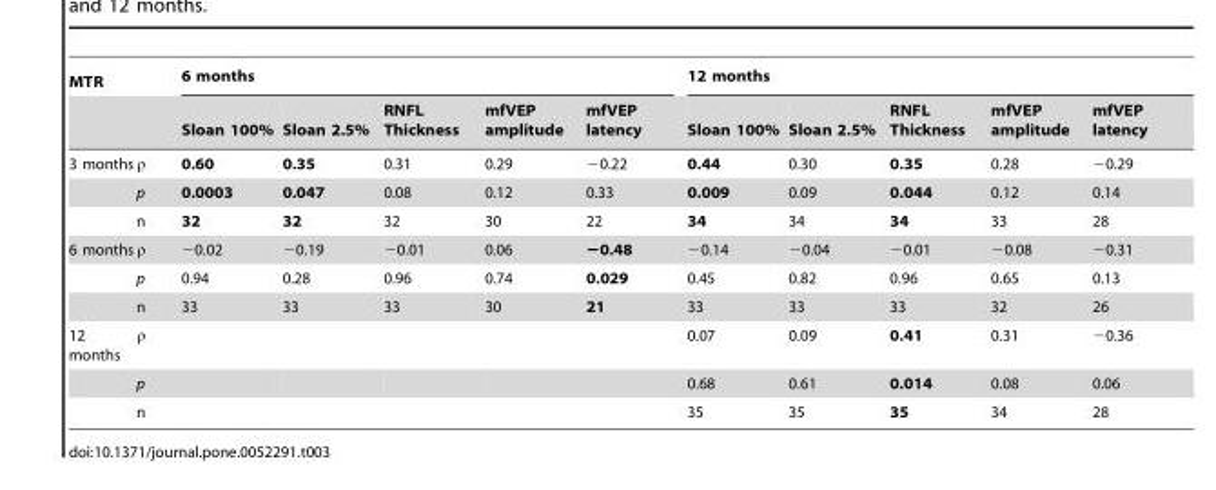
<table><thead><tr><td colspan="2">MTR</td><td colspan="5">6 months</td><td colspan="5">12 months</td></tr><tr><td></td><td></td><td>Sloan 100%</td><td>Sloan 2.5%</td><td>RNFL Thickness</td><td>mfVEP amplitude</td><td>mfVEP latency</td><td>Sloan 100%</td><td>Sloan 2.5%</td><td>RNFL Thickness</td><td>mfVEP amplitude</td><td>mfVEP latency</td></tr></thead><tbody><tr><td rowspan="3">3 months</td><td>ρ</td><td>0.60</td><td>0.35</td><td>0.31</td><td>0.29</td><td>−0.22</td><td>0.44</td><td>0.30</td><td>0.35</td><td>0.28</td><td>−0.29</td></tr><tr><td>p</td><td>0.0003</td><td>0.047</td><td>0.08</td><td>0.12</td><td>0.33</td><td>0.009</td><td>0.09</td><td>0.044</td><td>0.12</td><td>0.14</td></tr><tr><td>n</td><td>32</td><td>32</td><td>32</td><td>30</td><td>22</td><td>34</td><td>34</td><td>34</td><td>33</td><td>28</td></tr><tr><td rowspan="3">6 months</td><td>ρ</td><td>−0.02</td><td>−0.19</td><td>−0.01</td><td>0.06</td><td>−0.48</td><td>−0.14</td><td>−0.04</td><td>−0.01</td><td>−0.08</td><td>−0.31</td></tr><tr><td>p</td><td>0.94</td><td>0.28</td><td>0.96</td><td>0.74</td><td>0.029</td><td>0.45</td><td>0.82</td><td>0.96</td><td>0.65</td><td>0.13</td></tr><tr><td>n</td><td>33</td><td>33</td><td>33</td><td>30</td><td>21</td><td>33</td><td>33</td><td>33</td><td>32</td><td>26</td></tr><tr><td rowspan="3">12 months</td><td>ρ</td><td></td><td></td><td></td><td></td><td></td><td>0.07</td><td>0.09</td><td>0.41</td><td>0.31</td><td>−0.36</td></tr><tr><td>p</td><td></td><td></td><td></td><td></td><td></td><td>0.68</td><td>0.61</td><td>0.014</td><td>0.08</td><td>0.06</td></tr><tr><td>n</td><td></td><td></td><td></td><td></td><td></td><td>35</td><td>35</td><td>35</td><td>34</td><td>28</td></tr></tbody></table>